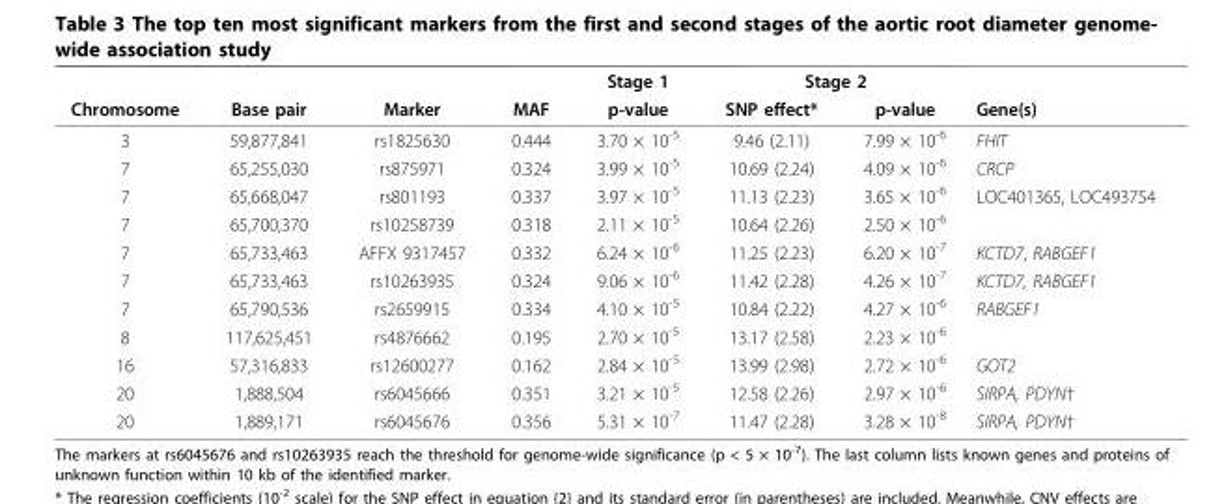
<table><thead><tr><td rowspan="2">Chromosome</td><td rowspan="2">Base pair</td><td rowspan="2">Marker</td><td rowspan="2">MAF</td><td rowspan="2">Stage 1 p-value</td><td colspan="2">Stage 2</td><td rowspan="2">Gene(s)</td></tr><tr><td>SNP effect*</td><td>p-value</td></tr></thead><tbody><tr><td>3</td><td>59,877,841</td><td>rs1825630</td><td>0.444</td><td>3.70 × 10<sup>-5</sup></td><td>9.46 (2.11)</td><td>7.99 × 10<sup>-6</sup></td><td>FHIT</td></tr><tr><td>7</td><td>65,255,030</td><td>rs875971</td><td>0.324</td><td>3.99 × 10<sup>-5</sup></td><td>10.69 (2.24)</td><td>4.09 × 10<sup>-6</sup></td><td>CRCP</td></tr><tr><td>7</td><td>65,668,047</td><td>rs801193</td><td>0.337</td><td>3.97 × 10<sup>-5</sup></td><td>11.13 (2.23)</td><td>3.65 × 10<sup>-6</sup></td><td>LOC401365, LOC493754</td></tr><tr><td>7</td><td>65,700,370</td><td>rs10258739</td><td>0.318</td><td>2.11 × 10<sup>-5</sup></td><td>10.64 (2.26)</td><td>2.50 × 10<sup>-6</sup></td><td></td></tr><tr><td>7</td><td>65,733,463</td><td>AFFX 9317457</td><td>0.332</td><td>6.24 × 10<sup>-6</sup></td><td>11.25 (2.23)</td><td>6.20 × 10<sup>-7</sup></td><td>KCTD7, RABGEF1</td></tr><tr><td>7</td><td>65,733,463</td><td>rs10263935</td><td>0.324</td><td>9.06 × 10<sup>-6</sup></td><td>11.42 (2.28)</td><td>4.26 × 10<sup>-7</sup></td><td>KCTD7, RABGEF1</td></tr><tr><td>7</td><td>65,790,536</td><td>rs2659915</td><td>0.334</td><td>4.10 × 10<sup>-5</sup></td><td>10.84 (2.22)</td><td>4.27 × 10<sup>-6</sup></td><td>RABGEF1</td></tr><tr><td>8</td><td>117,625,451</td><td>rs4876662</td><td>0.195</td><td>2.70 × 10<sup>-5</sup></td><td>13.17 (2.58)</td><td>2.23 × 10<sup>-6</sup></td><td></td></tr><tr><td>16</td><td>57,316,833</td><td>rs12600277</td><td>0.162</td><td>2.84 × 10<sup>-5</sup></td><td>13.99 (2.98)</td><td>2.72 × 10<sup>-6</sup></td><td>GOT2</td></tr><tr><td>20</td><td>1,888,504</td><td>rs6045666</td><td>0.351</td><td>3.21 × 10<sup>-5</sup></td><td>12.58 (2.26)</td><td>2.97 × 10<sup>-6</sup></td><td>SIRPA, PDYN†</td></tr><tr><td>20</td><td>1,889,171</td><td>rs6045676</td><td>0.356</td><td>5.31 × 10<sup>-7</sup></td><td>11.47 (2.28)</td><td>3.28 × 10<sup>-8</sup></td><td>SIRPA, PDYN†</td></tr></tbody></table>